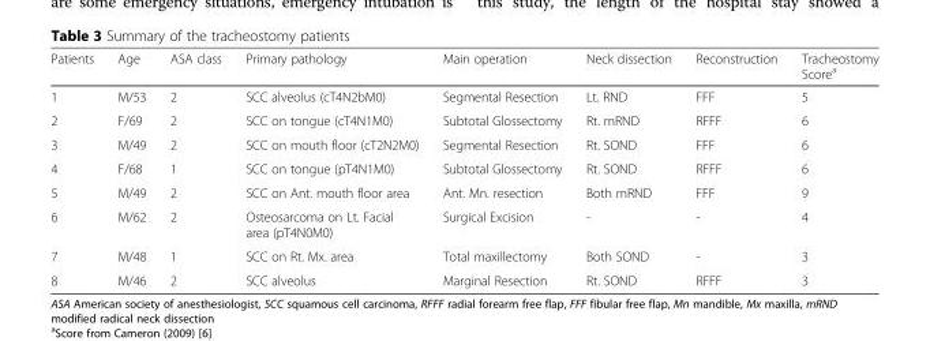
<table><thead><tr><td>Patients</td><td>Age</td><td>ASA class</td><td>Primary pathology</td><td>Main operation</td><td>Neck dissection</td><td>Reconstruction</td><td>Tracheostomy Score<sup>a</sup></td></tr></thead><tbody><tr><td>1</td><td>M/53</td><td>2</td><td>SCC alveolus (cT4N2bM0)</td><td>Segmental Resection</td><td>Lt. RND</td><td>FFF</td><td>5</td></tr><tr><td>2</td><td>F/69</td><td>2</td><td>SCC on tongue (cT4N1M0)</td><td>Subtotal Glossectomy</td><td>Rt. mRND</td><td>RFFF</td><td>6</td></tr><tr><td>3</td><td>M/49</td><td>2</td><td>SCC on mouth floor (cT2N2M0)</td><td>Segmental Resection</td><td>Rt. SOND</td><td>FFF</td><td>6</td></tr><tr><td>4</td><td>F/68</td><td>1</td><td>SCC on tongue (pT4N1M0)</td><td>Subtotal Glossectomy</td><td>Rt. SOND</td><td>RFFF</td><td>6</td></tr><tr><td>5</td><td>M/49</td><td>2</td><td>SCC on Ant. mouth floor area</td><td>Ant. Mn. resection</td><td>Both mRND</td><td>FFF</td><td>9</td></tr><tr><td>6</td><td>M/62</td><td>2</td><td>Osteosarcoma on Lt. Facial area (pT4N0M0)</td><td>Surgical Excision</td><td>-</td><td>-</td><td>4</td></tr><tr><td>7</td><td>M/48</td><td>1</td><td>SCC on Rt. Mx. area</td><td>Total maxillectomy</td><td>Both SOND</td><td>-</td><td>3</td></tr><tr><td>8</td><td>M/46</td><td>2</td><td>SCC alveolus</td><td>Marginal Resection</td><td>Rt. SOND</td><td>RFFF</td><td>3</td></tr></tbody></table>